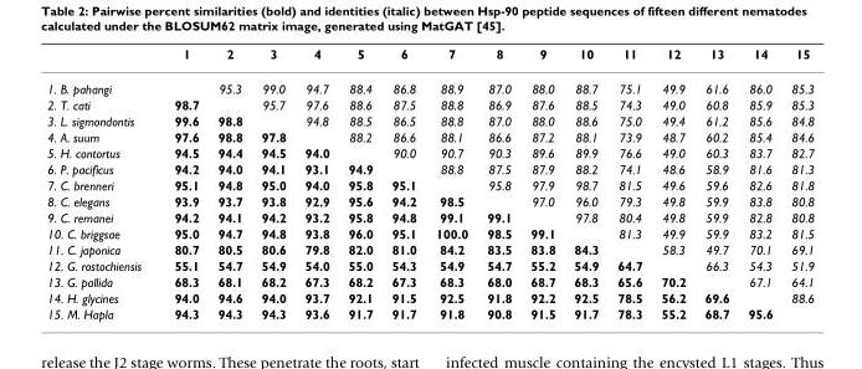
<table><thead><tr><td></td><td>1</td><td>2</td><td>3</td><td>4</td><td>5</td><td>6</td><td>7</td><td>8</td><td>9</td><td>10</td><td>11</td><td>12</td><td>13</td><td>14</td><td>15</td></tr></thead><tbody><tr><td>1. B. pahangi</td><td></td><td>95.3</td><td>99.0</td><td>94.7</td><td>88.4</td><td>86.8</td><td>88.9</td><td>87.0</td><td>88.0</td><td>88.7</td><td>75.1</td><td>49.9</td><td>61.6</td><td>86.0</td><td>85.3</td></tr><tr><td>2. T. cati</td><td>98.7</td><td></td><td>95.7</td><td>97.6</td><td>88.6</td><td>87.5</td><td>88.8</td><td>86.9</td><td>87.6</td><td>88.5</td><td>74.3</td><td>49.0</td><td>60.8</td><td>85.9</td><td>85.3</td></tr><tr><td>3. L. sigmondontis</td><td>99.6</td><td>98.8</td><td></td><td>94.8</td><td>88.5</td><td>86.5</td><td>88.8</td><td>87.0</td><td>88.0</td><td>88.6</td><td>75.0</td><td>49.4</td><td>61.2</td><td>85.6</td><td>84.8</td></tr><tr><td>4. A. suum</td><td>97.6</td><td>98.8</td><td>97.8</td><td></td><td>88.2</td><td>86.6</td><td>88.1</td><td>86.6</td><td>87.2</td><td>88.1</td><td>73.9</td><td>48.7</td><td>60.2</td><td>85.4</td><td>84.6</td></tr><tr><td>5. H. contortus</td><td>94.5</td><td>94.4</td><td>94.5</td><td>94.0</td><td></td><td>90.0</td><td>90.7</td><td>90.3</td><td>89.6</td><td>89.9</td><td>76.6</td><td>49.0</td><td>60.3</td><td>83.7</td><td>82.7</td></tr><tr><td>6. P. pacificus</td><td>94.2</td><td>94.0</td><td>94.1</td><td>93.1</td><td>94.9</td><td></td><td>88.8</td><td>87.5</td><td>87.9</td><td>88.2</td><td>74.1</td><td>48.6</td><td>58.9</td><td>81.6</td><td>81.3</td></tr><tr><td>7. C. brenneri</td><td>95.1</td><td>94.8</td><td>95.0</td><td>94.0</td><td>95.8</td><td>95.1</td><td></td><td>95.8</td><td>97.9</td><td>98.7</td><td>81.5</td><td>49.6</td><td>59.6</td><td>82.6</td><td>81.8</td></tr><tr><td>8. C. elegans</td><td>93.9</td><td>93.7</td><td>93.8</td><td>92.9</td><td>95.6</td><td>94.2</td><td>98.5</td><td></td><td>97.0</td><td>96.0</td><td>79.3</td><td>49.8</td><td>59.9</td><td>83.8</td><td>80.8</td></tr><tr><td>9. C. remanei</td><td>94.2</td><td>94.1</td><td>94.2</td><td>93.2</td><td>95.8</td><td>94.8</td><td>99.1</td><td>99.1</td><td></td><td>97.8</td><td>80.4</td><td>49.8</td><td>59.9</td><td>82.8</td><td>80.8</td></tr><tr><td>10. C. briggsae</td><td>95.0</td><td>94.7</td><td>94.8</td><td>93.8</td><td>96.0</td><td>95.1</td><td>100.0</td><td>98.5</td><td>99.1</td><td></td><td>81.3</td><td>49.9</td><td>59.9</td><td>83.2</td><td>81.5</td></tr><tr><td>11. C. japonica</td><td>80.7</td><td>80.5</td><td>80.6</td><td>79.8</td><td>82.0</td><td>81.0</td><td>84.2</td><td>83.5</td><td>83.8</td><td>84.3</td><td></td><td>58.3</td><td>49.7</td><td>70.1</td><td>69.1</td></tr><tr><td>12. G. rostochiensis</td><td>55.1</td><td>54.7</td><td>54.9</td><td>54.0</td><td>55.0</td><td>54.3</td><td>54.9</td><td>54.7</td><td>55.2</td><td>54.9</td><td>64.7</td><td></td><td>66.3</td><td>54.3</td><td>51.9</td></tr><tr><td>13. G. pallida</td><td>68.3</td><td>68.1</td><td>68.2</td><td>67.3</td><td>68.2</td><td>67.3</td><td>68.3</td><td>68.0</td><td>68.7</td><td>68.3</td><td>65.6</td><td>70.2</td><td></td><td>67.1</td><td>64.1</td></tr><tr><td>14. H. glycines</td><td>94.0</td><td>94.6</td><td>94.0</td><td>93.7</td><td>92.1</td><td>91.5</td><td>92.5</td><td>91.8</td><td>92.2</td><td>92.5</td><td>78.5</td><td>56.2</td><td>69.6</td><td></td><td>88.6</td></tr><tr><td>15. M. Hapla</td><td>94.3</td><td>94.3</td><td>94.3</td><td>93.6</td><td>91.7</td><td>91.7</td><td>91.8</td><td>90.8</td><td>91.5</td><td>91.7</td><td>78.3</td><td>55.2</td><td>68.7</td><td>95.6</td><td></td></tr></tbody></table>